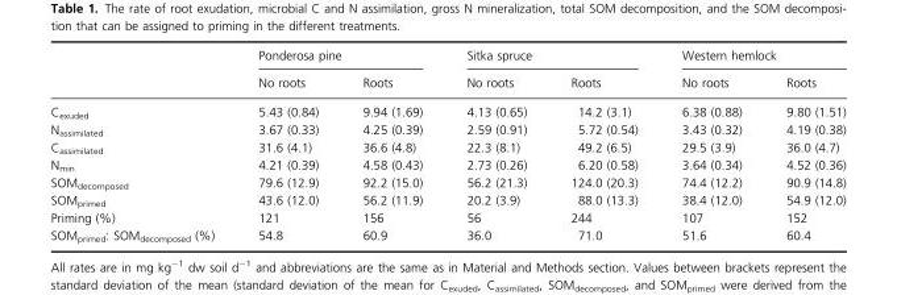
<table><thead><tr><td rowspan="2"></td><td colspan="2">Ponderosa pine</td><td colspan="2">Sitka spruce</td><td colspan="2">Western hemlock</td></tr><tr><td>No roots</td><td>Roots</td><td>No roots</td><td>Roots</td><td>No roots</td><td>Roots</td></tr></thead><tbody><tr><td>C<sub>exuded</sub></td><td>5.43 (0.84)</td><td>9.94 (1.69)</td><td>4.13 (0.65)</td><td>14.2 (3.1)</td><td>6.38 (0.88)</td><td>9.80 (1.51)</td></tr><tr><td>N<sub>assimilated</sub></td><td>3.67 (0.33)</td><td>4.25 (0.39)</td><td>2.59 (0.91)</td><td>5.72 (0.54)</td><td>3.43 (0.32)</td><td>4.19 (0.38)</td></tr><tr><td>C<sub>assimilated</sub></td><td>31.6 (4.1)</td><td>36.6 (4.8)</td><td>22.3 (8.1)</td><td>49.2 (6.5)</td><td>29.5 (3.9)</td><td>36.0 (4.7)</td></tr><tr><td>N<sub>min</sub></td><td>4.21 (0.39)</td><td>4.58 (0.43)</td><td>2.73 (0.26)</td><td>6.20 (0.58)</td><td>3.64 (0.34)</td><td>4.52 (0.36)</td></tr><tr><td>SOM<sub>decomposed</sub></td><td>79.6 (12.9)</td><td>92.2 (15.0)</td><td>56.2 (21.3)</td><td>124.0 (20.3)</td><td>74.4 (12.2)</td><td>90.9 (14.8)</td></tr><tr><td>SOM<sub>primed</sub></td><td>43.6 (12.0)</td><td>56.2 (11.9)</td><td>20.2 (3.9)</td><td>88.0 (13.3)</td><td>38.4 (12.0)</td><td>54.9 (12.0)</td></tr><tr><td>Priming (%)</td><td>121</td><td>156</td><td>56</td><td>244</td><td>107</td><td>152</td></tr><tr><td>SOM<sub>primed</sub>: SOM<sub>decomposed</sub> (%)</td><td>54.8</td><td>60.9</td><td>36.0</td><td>71.0</td><td>51.6</td><td>60.4</td></tr></tbody></table>